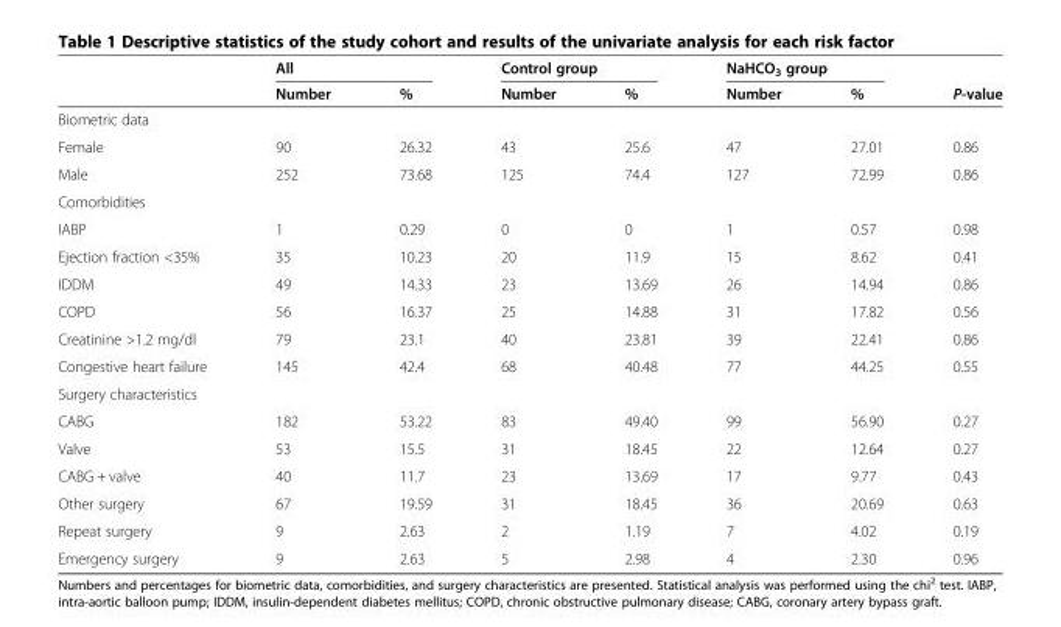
<table><thead><tr><td rowspan="2"></td><td colspan="2">All</td><td colspan="2">Control group</td><td colspan="2">NaHCO<sub>3</sub> group</td><td rowspan="2">P-value</td></tr><tr><td>Number</td><td>%</td><td>Number</td><td>%</td><td>Number</td><td>%</td></tr></thead><tbody><tr><td colspan="8">Biometric data</td></tr><tr><td>Female</td><td>90</td><td>26.32</td><td>43</td><td>25.6</td><td>47</td><td>27.01</td><td>0.86</td></tr><tr><td>Male</td><td>252</td><td>73.68</td><td>125</td><td>74.4</td><td>127</td><td>72.99</td><td>0.86</td></tr><tr><td colspan="8">Comorbidities</td></tr><tr><td>IABP</td><td>1</td><td>0.29</td><td>0</td><td>0</td><td>1</td><td>0.57</td><td>0.98</td></tr><tr><td>Ejection fraction &lt;35%</td><td>35</td><td>10.23</td><td>20</td><td>11.9</td><td>15</td><td>8.62</td><td>0.41</td></tr><tr><td>IDDM</td><td>49</td><td>14.33</td><td>23</td><td>13.69</td><td>26</td><td>14.94</td><td>0.86</td></tr><tr><td>COPD</td><td>56</td><td>16.37</td><td>25</td><td>14.88</td><td>31</td><td>17.82</td><td>0.56</td></tr><tr><td>Creatinine &gt;1.2 mg/dl</td><td>79</td><td>23.1</td><td>40</td><td>23.81</td><td>39</td><td>22.41</td><td>0.86</td></tr><tr><td>Congestive heart failure</td><td>145</td><td>42.4</td><td>68</td><td>40.48</td><td>77</td><td>44.25</td><td>0.55</td></tr><tr><td colspan="8">Surgery characteristics</td></tr><tr><td>CABG</td><td>182</td><td>53.22</td><td>83</td><td>49.40</td><td>99</td><td>56.90</td><td>0.27</td></tr><tr><td>Valve</td><td>53</td><td>15.5</td><td>31</td><td>18.45</td><td>22</td><td>12.64</td><td>0.27</td></tr><tr><td>CABG + valve</td><td>40</td><td>11.7</td><td>23</td><td>13.69</td><td>17</td><td>9.77</td><td>0.43</td></tr><tr><td>Other surgery</td><td>67</td><td>19.59</td><td>31</td><td>18.45</td><td>36</td><td>20.69</td><td>0.63</td></tr><tr><td>Repeat surgery</td><td>9</td><td>2.63</td><td>2</td><td>1.19</td><td>7</td><td>4.02</td><td>0.19</td></tr><tr><td>Emergency surgery</td><td>9</td><td>2.63</td><td>5</td><td>2.98</td><td>4</td><td>2.30</td><td>0.96</td></tr></tbody></table>